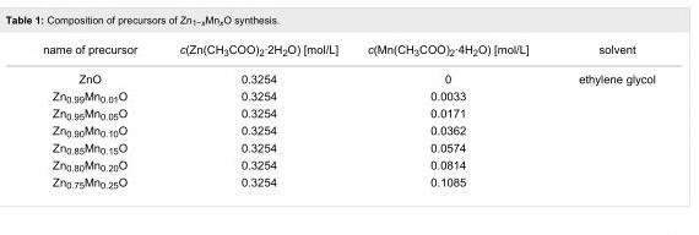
<table><tbody><tr><td>name of precursor</td><td>c(Zn(CH<sub>3</sub>COO)<sub>2</sub>·2H<sub>2</sub>O) [mol/L]</td><td>c(Mn(CH<sub>3</sub>COO)<sub>2</sub>∙4H<sub>2</sub>O) [mol/L]</td><td>solvent</td></tr><tr><td>ZnO</td><td>0.3254</td><td>0</td><td rowspan="7">ethylene glycol</td></tr><tr><td>Zn<sub>0.99</sub>Mn<sub>0.01</sub>O</td><td>0.3254</td><td>0.0033</td></tr><tr><td>Zn<sub>0.95</sub>Mn<sub>0.05</sub>O</td><td>0.3254</td><td>0.0171</td></tr><tr><td>Zn<sub>0.90</sub>Mn<sub>0.10</sub>O</td><td>0.3254</td><td>0.0362</td></tr><tr><td>Zn<sub>0.85</sub>Mn<sub>0.15</sub>O</td><td>0.3254</td><td>0.0574</td></tr><tr><td>Zn<sub>0.80</sub>Mn<sub>0.20</sub>O</td><td>0.3254</td><td>0.0814</td></tr><tr><td>Zn<sub>0.75</sub>Mn<sub>0.25</sub>O</td><td>0.3254</td><td>0.1085</td></tr></tbody></table>